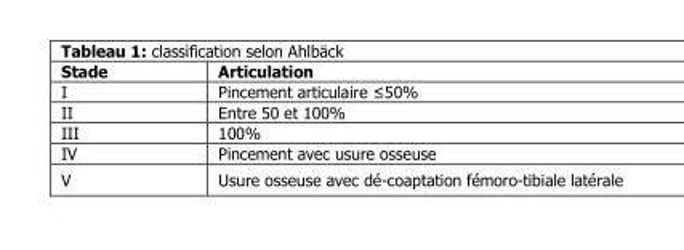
<table><thead><tr><td>Stade</td><td>Articulation</td></tr></thead><tbody><tr><td>I</td><td>Pincement articulaire ≤50%</td></tr><tr><td>II</td><td>Entre 50 et 100%</td></tr><tr><td>III</td><td>100%</td></tr><tr><td>IV</td><td>Pincement avec usure osseuse</td></tr><tr><td>V</td><td>Usure osseuse avec dé-coaptation fémoro-tibiale latérale</td></tr></tbody></table>